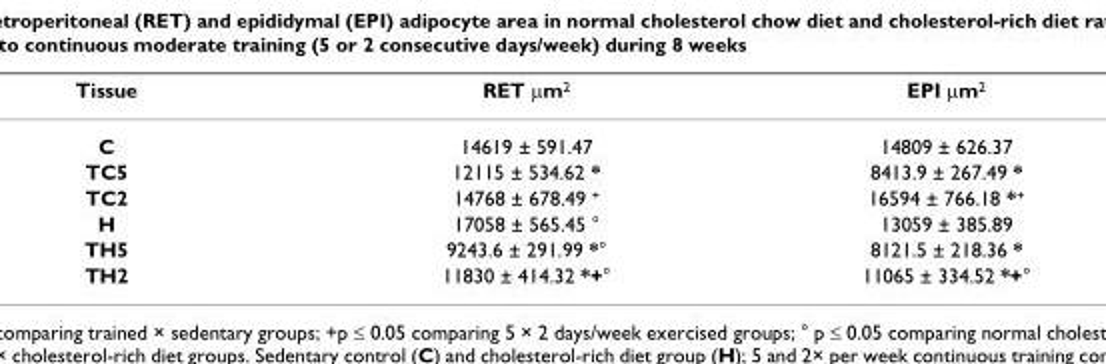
<table><thead><tr><td>Tissue</td><td>RET μm<sup>2</sup></td><td>EPI μm<sup>2</sup></td></tr></thead><tbody><tr><td>C</td><td>14619 ± 591.47</td><td>14809 ± 626.37</td></tr><tr><td>TC5</td><td>12115 ± 534.62 *</td><td>8413.9 ± 267.49 *</td></tr><tr><td>TC2</td><td>14768 ± 678.49 <sup>+</sup></td><td>16594 ± 766.18 *<sup>+</sup></td></tr><tr><td>H</td><td>17058 ± 565.45 °</td><td>13059 ± 385.89</td></tr><tr><td>TH5</td><td>9243.6 ± 291.99 *°</td><td>8121.5 ± 218.36 *</td></tr><tr><td>TH2</td><td>11830 ± 414.32 *+°</td><td>11065 ± 334.52 *+°</td></tr></tbody></table>